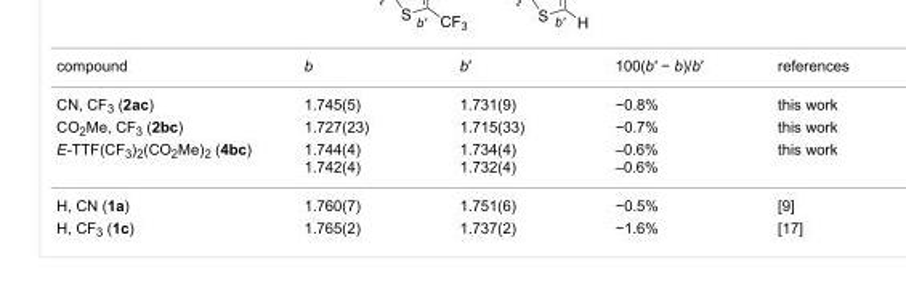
<table><tbody><tr><td>compound</td><td>b</td><td>b′</td><td>100(b′ − b)/b′</td><td>references</td></tr><tr><td>CN, CF<sub>3</sub> (2ac)</td><td>1.745(5)</td><td>1.731(9)</td><td>−0.8%</td><td>this work</td></tr><tr><td>CO<sub>2</sub>Me, CF<sub>3</sub> (2bc)</td><td>1.727(23)</td><td>1.715(33)</td><td>−0.7%</td><td>this work</td></tr><tr><td>E-TTF(CF<sub>3</sub>)<sub>2</sub>(CO<sub>2</sub>Me)<sub>2</sub> (4bc)</td><td>1.744(4) 1.742(4)</td><td>1.734(4) 1.732(4)</td><td>–0.6% –0.6%</td><td>this work</td></tr><tr><td>H, CN (1a)</td><td>1.760(7)</td><td>1.751(6)</td><td>−0.5%</td><td>[9]</td></tr><tr><td>H, CF<sub>3</sub> (1c)</td><td>1.765(2)</td><td>1.737(2)</td><td>−1.6%</td><td>[17]</td></tr></tbody></table>